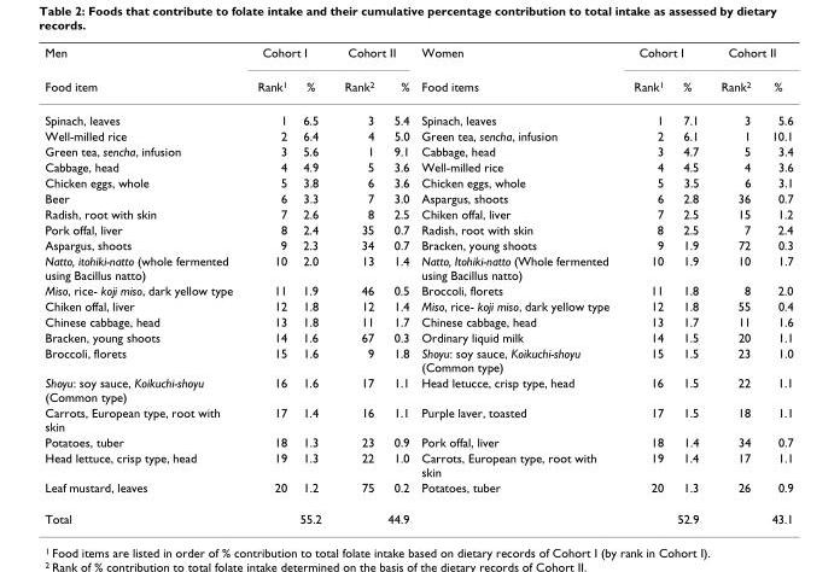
<table><thead><tr><td rowspan="2">Men Food item</td><td colspan="2">Cohort I</td><td colspan="2">Cohort II</td><td rowspan="2">Women Food items</td><td colspan="2">Cohort I</td><td colspan="2">Cohort II</td></tr><tr><td>Rank<sup>1</sup></td><td>%</td><td>Rank<sup>2</sup></td><td>%</td><td>Rank<sup>1</sup></td><td>%</td><td>Rank<sup>2</sup></td><td>%</td></tr></thead><tbody><tr><td>Spinach, leaves</td><td>1</td><td>6.5</td><td>3</td><td>5.4</td><td>Spinach, leaves</td><td>1</td><td>7.1</td><td>3</td><td>5.6</td></tr><tr><td>Well-milled rice</td><td>2</td><td>6.4</td><td>4</td><td>5.0</td><td>Green tea, sencha, infusion</td><td>2</td><td>6.1</td><td>1</td><td>10.1</td></tr><tr><td>Green tea, sencha, infusion</td><td>3</td><td>5.6</td><td>1</td><td>9.1</td><td>Cabbage, head</td><td>3</td><td>4.7</td><td>5</td><td>3.4</td></tr><tr><td>Cabbage, head</td><td>4</td><td>4.9</td><td>5</td><td>3.6</td><td>Well-milled rice</td><td>4</td><td>4.5</td><td>4</td><td>3.6</td></tr><tr><td>Chicken eggs, whole</td><td>5</td><td>3.8</td><td>6</td><td>3.6</td><td>Chicken eggs, whole</td><td>5</td><td>3.5</td><td>6</td><td>3.1</td></tr><tr><td>Beer</td><td>6</td><td>3.3</td><td>7</td><td>3.0</td><td>Aspargus, shoots</td><td>6</td><td>2.8</td><td>36</td><td>0.7</td></tr><tr><td>Radish, root with skin</td><td>7</td><td>2.6</td><td>8</td><td>2.5</td><td>Chiken offal, liver</td><td>7</td><td>2.5</td><td>15</td><td>1.2</td></tr><tr><td>Pork offal, liver</td><td>8</td><td>2.4</td><td>35</td><td>0.7</td><td>Radish, root with skin</td><td>8</td><td>2.5</td><td>7</td><td>2.4</td></tr><tr><td>Aspargus, shoots</td><td>9</td><td>2.3</td><td>34</td><td>0.7</td><td>Bracken, young shoots</td><td>9</td><td>1.9</td><td>72</td><td>0.3</td></tr><tr><td>Natto, itohiki-natto (whole fermented using Bacillus natto)</td><td>10</td><td>2.0</td><td>13</td><td>1.4</td><td>Natto, Itohiki-natto (Whole fermented using Bacillus natto)</td><td>10</td><td>1.9</td><td>10</td><td>1.7</td></tr><tr><td>Miso, rice- koji miso, dark yellow type</td><td>11</td><td>1.9</td><td>46</td><td>0.5</td><td>Broccoli, florets</td><td>11</td><td>1.8</td><td>8</td><td>2.0</td></tr><tr><td>Chiken offal, liver</td><td>12</td><td>1.8</td><td>12</td><td>1.4</td><td>Miso, rice- koji miso, dark yellow type</td><td>12</td><td>1.8</td><td>55</td><td>0.4</td></tr><tr><td>Chinese cabbage, head</td><td>13</td><td>1.8</td><td>11</td><td>1.7</td><td>Chinese cabbage, head</td><td>13</td><td>1.7</td><td>11</td><td>1.6</td></tr><tr><td>Bracken, young shoots</td><td>14</td><td>1.6</td><td>67</td><td>0.3</td><td>Ordinary liquid milk</td><td>14</td><td>1.5</td><td>20</td><td>1.1</td></tr><tr><td>Broccoli, florets</td><td>15</td><td>1.6</td><td>9</td><td>1.8</td><td>Shoyu: soy sauce, Koikuchi-shoyu (Common type)</td><td>15</td><td>1.5</td><td>23</td><td>1.0</td></tr><tr><td>Shoyu: soy sauce, Koikuchi-shoyu (Common type)</td><td>16</td><td>1.6</td><td>17</td><td>1.1</td><td>Head letucce, crisp type, head</td><td>16</td><td>1.5</td><td>22</td><td>1.1</td></tr><tr><td>Carrots, European type, root with skin</td><td>17</td><td>1.4</td><td>16</td><td>1.1</td><td>Purple laver, toasted</td><td>17</td><td>1.5</td><td>18</td><td>1.1</td></tr><tr><td>Potatoes, tuber</td><td>18</td><td>1.3</td><td>23</td><td>0.9</td><td>Pork offal, liver</td><td>18</td><td>1.4</td><td>34</td><td>0.7</td></tr><tr><td>Head lettuce, crisp type, head</td><td>19</td><td>1.3</td><td>22</td><td>1.0</td><td>Carrots, European type, root with skin</td><td>19</td><td>1.4</td><td>17</td><td>1.1</td></tr><tr><td>Leaf mustard, leaves</td><td>20</td><td>1.2</td><td>75</td><td>0.2</td><td>Potatoes, tuber</td><td>20</td><td>1.3</td><td>26</td><td>0.9</td></tr><tr><td>Total</td><td></td><td>55.2</td><td></td><td>44.9</td><td></td><td></td><td>52.9</td><td></td><td>43.1</td></tr></tbody></table>